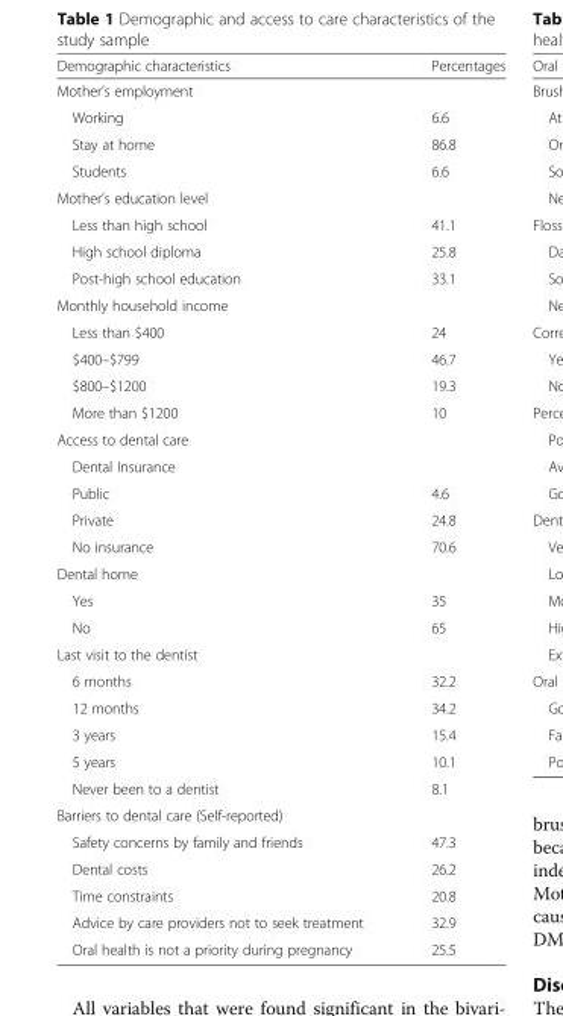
<table><thead><tr><td>Demographic characteristics</td><td>Percentages</td></tr></thead><tbody><tr><td colspan="2">Mother’s employment</td></tr><tr><td>Working</td><td>6.6</td></tr><tr><td>Stay at home</td><td>86.8</td></tr><tr><td>Students</td><td>6.6</td></tr><tr><td colspan="2">Mother’s education level</td></tr><tr><td>Less than high school</td><td>41.1</td></tr><tr><td>High school diploma</td><td>25.8</td></tr><tr><td>Post-high school education</td><td>33.1</td></tr><tr><td colspan="2">Monthly household income</td></tr><tr><td>Less than $400</td><td>24</td></tr><tr><td>$400–$799</td><td>46.7</td></tr><tr><td>$800–$1200</td><td>19.3</td></tr><tr><td>More than $1200</td><td>10</td></tr><tr><td colspan="2">Access to dental care</td></tr><tr><td colspan="2">Dental Insurance</td></tr><tr><td>Public</td><td>4.6</td></tr><tr><td>Private</td><td>24.8</td></tr><tr><td>No insurance</td><td>70.6</td></tr><tr><td colspan="2">Dental home</td></tr><tr><td>Yes</td><td>35</td></tr><tr><td>No</td><td>65</td></tr><tr><td colspan="2">Last visit to the dentist</td></tr><tr><td>6 months</td><td>32.2</td></tr><tr><td>12 months</td><td>34.2</td></tr><tr><td>3 years</td><td>15.4</td></tr><tr><td>5 years</td><td>10.1</td></tr><tr><td>Never been to a dentist</td><td>8.1</td></tr><tr><td colspan="2">Barriers to dental care (Self-reported)</td></tr><tr><td>Safety concerns by family and friends</td><td>47.3</td></tr><tr><td>Dental costs</td><td>26.2</td></tr><tr><td>Time constraints</td><td>20.8</td></tr><tr><td>Advice by care providers not to seek treatment</td><td>32.9</td></tr><tr><td>Oral health is not a priority during pregnancy</td><td>25.5</td></tr></tbody></table>